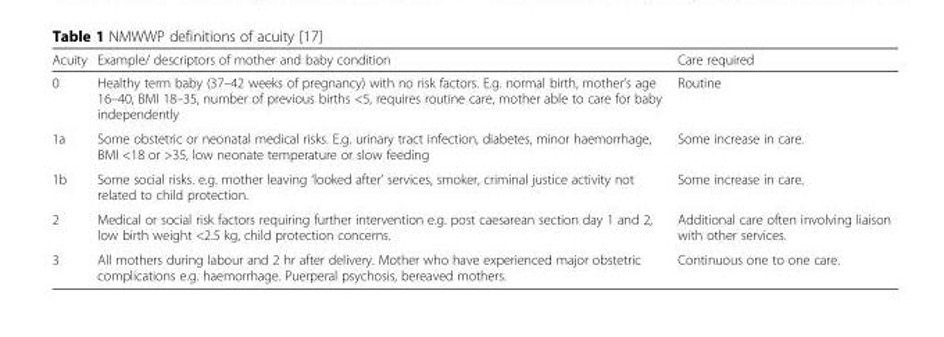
<table><thead><tr><td>Acuity</td><td>Example/ descriptors of mother and baby condition</td><td>Care required</td></tr></thead><tbody><tr><td>0</td><td>Healthy term baby (37–42 weeks of pregnancy) with no risk factors. E.g. normal birth, mother’s age 16–40, BMI 18–35, number of previous births &lt;5, requires routine care, mother able to care for baby independently</td><td>Routine</td></tr><tr><td>1a</td><td>Some obstetric or neonatal medical risks. E.g. urinary tract infection, diabetes, minor haemorrhage, BMI &lt;18 or &gt;35, low neonate temperature or slow feeding</td><td>Some increase in care.</td></tr><tr><td>1b</td><td>Some social risks. e.g. mother leaving ‘looked after’ services, smoker, criminal justice activity not related to child protection.</td><td>Some increase in care.</td></tr><tr><td>2</td><td>Medical or social risk factors requiring further intervention e.g. post caesarean section day 1 and 2, low birth weight &lt;2.5 kg, child protection concerns.</td><td>Additional care often involving liaison with other services.</td></tr><tr><td>3</td><td>All mothers during labour and 2 hr after delivery. Mother who have experienced major obstetric complications e.g. haemorrhage. Puerperal psychosis, bereaved mothers.</td><td>Continuous one to one care.</td></tr></tbody></table>